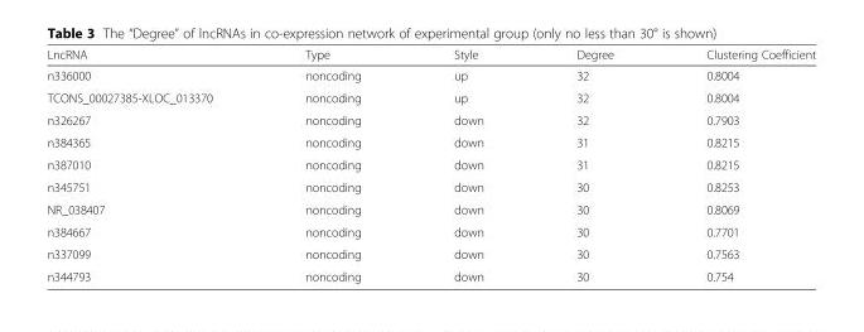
<table><thead><tr><td>LncRNA</td><td>Type</td><td>Style</td><td>Degree</td><td>Clustering Coefficient</td></tr></thead><tbody><tr><td>n336000</td><td>noncoding</td><td>up</td><td>32</td><td>0.8004</td></tr><tr><td>TCONS_00027385-XLOC_013370</td><td>noncoding</td><td>up</td><td>32</td><td>0.8004</td></tr><tr><td>n326267</td><td>noncoding</td><td>down</td><td>32</td><td>0.7903</td></tr><tr><td>n384365</td><td>noncoding</td><td>down</td><td>31</td><td>0.8215</td></tr><tr><td>n387010</td><td>noncoding</td><td>down</td><td>31</td><td>0.8215</td></tr><tr><td>n345751</td><td>noncoding</td><td>down</td><td>30</td><td>0.8253</td></tr><tr><td>NR_038407</td><td>noncoding</td><td>down</td><td>30</td><td>0.8069</td></tr><tr><td>n384667</td><td>noncoding</td><td>down</td><td>30</td><td>0.7701</td></tr><tr><td>n337099</td><td>noncoding</td><td>down</td><td>30</td><td>0.7563</td></tr><tr><td>n344793</td><td>noncoding</td><td>down</td><td>30</td><td>0.754</td></tr></tbody></table>